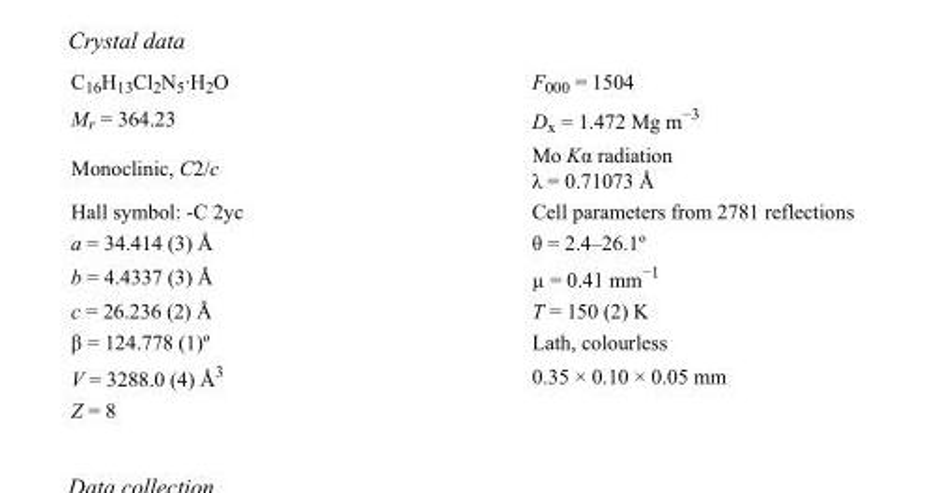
<table><tbody><tr><td>C<sub>16</sub>H<sub>13</sub>Cl<sub>2</sub>N<sub>5</sub>·H<sub>2</sub>O</td><td>F<sub>000</sub> = 1504</td></tr><tr><td>M<sub>r</sub> = 364.23</td><td>D<sub>x</sub> = 1.472 Mg m<sup>−3</sup></td></tr><tr><td>Monoclinic, C2/c</td><td>Mo Kα radiation λ = 0.71073 Å</td></tr><tr><td>Hall symbol: -C 2yc</td><td>Cell parameters from 2781 reflections</td></tr><tr><td>a = 34.414 (3) Å</td><td>θ = 2.4–26.1º</td></tr><tr><td>b = 4.4337 (3) Å</td><td>µ = 0.41 mm<sup>−1</sup></td></tr><tr><td>c = 26.236 (2) Å</td><td>T = 150 (2) K</td></tr><tr><td>β = 124.778 (1)º</td><td>Lath, colourless</td></tr><tr><td>V = 3288.0 (4) Å<sup>3</sup></td><td>0.35 × 0.10 × 0.05 mm</td></tr><tr><td>Z = 8</td><td></td></tr></tbody></table>